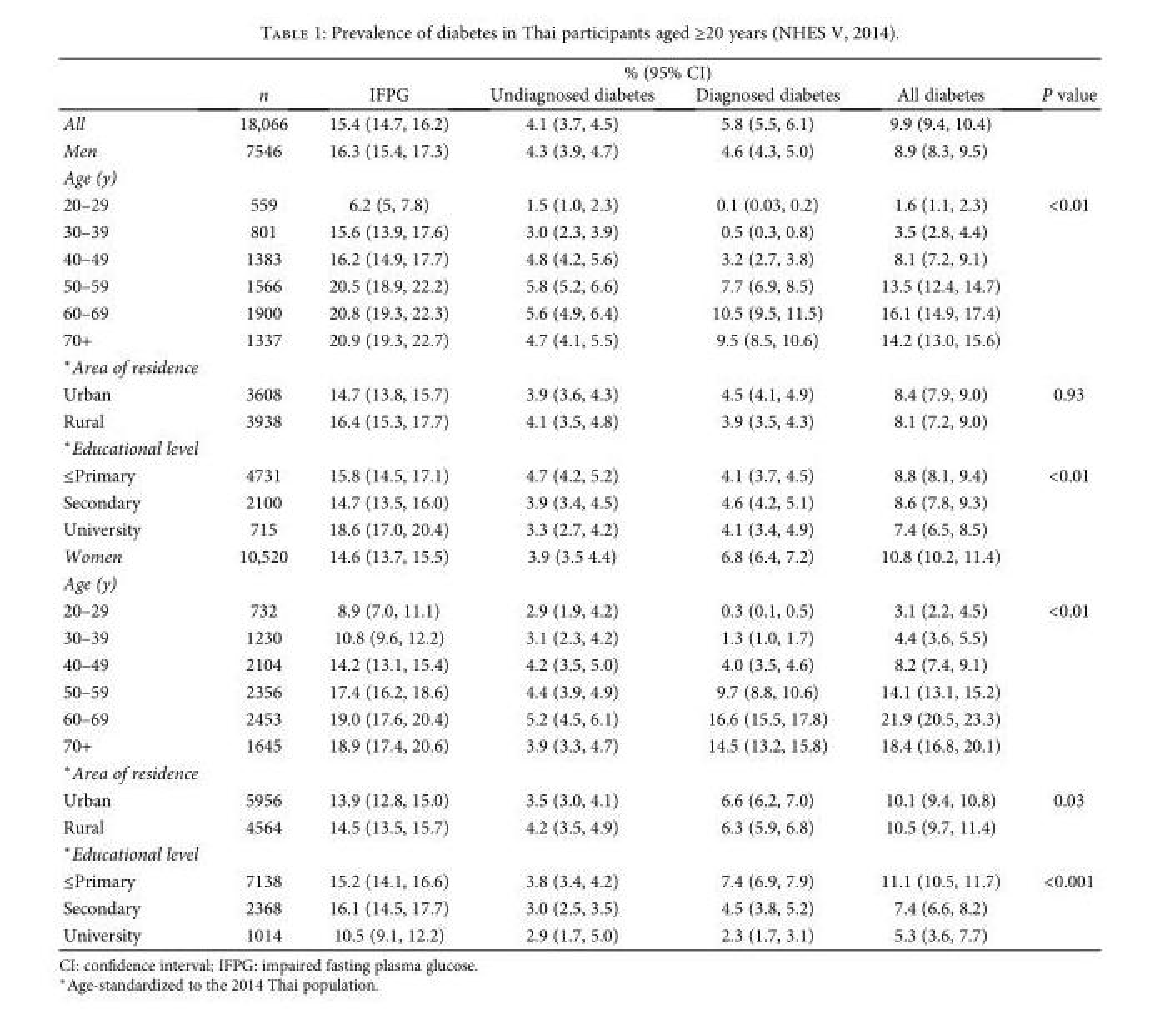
<table><thead><tr><td rowspan="2"></td><td colspan="6">% (95% CI)</td></tr><tr><td>n</td><td>IFPG</td><td>Undiagnosed diabetes</td><td>Diagnosed diabetes</td><td>All diabetes</td><td>P value</td></tr></thead><tbody><tr><td>All</td><td>18,066</td><td>15.4 (14.7, 16.2)</td><td>4.1 (3.7, 4.5)</td><td>5.8 (5.5, 6.1)</td><td>9.9 (9.4, 10.4)</td><td></td></tr><tr><td>Men</td><td>7546</td><td>16.3 (15.4, 17.3)</td><td>4.3 (3.9, 4.7)</td><td>4.6 (4.3, 5.0)</td><td>8.9 (8.3, 9.5)</td><td></td></tr><tr><td colspan="7">Age (y)</td></tr><tr><td>20–29</td><td>559</td><td>6.2 (5, 7.8)</td><td>1.5 (1.0, 2.3)</td><td>0.1 (0.03, 0.2)</td><td>1.6 (1.1, 2.3)</td><td>&lt;0.01</td></tr><tr><td>30–39</td><td>801</td><td>15.6 (13.9, 17.6)</td><td>3.0 (2.3, 3.9)</td><td>0.5 (0.3, 0.8)</td><td>3.5 (2.8, 4.4)</td><td></td></tr><tr><td>40–49</td><td>1383</td><td>16.2 (14.9, 17.7)</td><td>4.8 (4.2, 5.6)</td><td>3.2 (2.7, 3.8)</td><td>8.1 (7.2, 9.1)</td><td></td></tr><tr><td>50–59</td><td>1566</td><td>20.5 (18.9, 22.2)</td><td>5.8 (5.2, 6.6)</td><td>7.7 (6.9, 8.5)</td><td>13.5 (12.4, 14.7)</td><td></td></tr><tr><td>60–69</td><td>1900</td><td>20.8 (19.3, 22.3)</td><td>5.6 (4.9, 6.4)</td><td>10.5 (9.5, 11.5)</td><td>16.1 (14.9, 17.4)</td><td></td></tr><tr><td>70+</td><td>1337</td><td>20.9 (19.3, 22.7)</td><td>4.7 (4.1, 5.5)</td><td>9.5 (8.5, 10.6)</td><td>14.2 (13.0, 15.6)</td><td></td></tr><tr><td colspan="7">∗Area of residence</td></tr><tr><td>Urban</td><td>3608</td><td>14.7 (13.8, 15.7)</td><td>3.9 (3.6, 4.3)</td><td>4.5 (4.1, 4.9)</td><td>8.4 (7.9, 9.0)</td><td>0.93</td></tr><tr><td>Rural</td><td>3938</td><td>16.4 (15.3, 17.7)</td><td>4.1 (3.5, 4.8)</td><td>3.9 (3.5, 4.3)</td><td>8.1 (7.2, 9.0)</td><td></td></tr><tr><td colspan="7">∗Educational level</td></tr><tr><td>≤Primary</td><td>4731</td><td>15.8 (14.5, 17.1)</td><td>4.7 (4.2, 5.2)</td><td>4.1 (3.7, 4.5)</td><td>8.8 (8.1, 9.4)</td><td>&lt;0.01</td></tr><tr><td>Secondary</td><td>2100</td><td>14.7 (13.5, 16.0)</td><td>3.9 (3.4, 4.5)</td><td>4.6 (4.2, 5.1)</td><td>8.6 (7.8, 9.3)</td><td></td></tr><tr><td>University</td><td>715</td><td>18.6 (17.0, 20.4)</td><td>3.3 (2.7, 4.2)</td><td>4.1 (3.4, 4.9)</td><td>7.4 (6.5, 8.5)</td><td></td></tr><tr><td>Women</td><td>10,520</td><td>14.6 (13.7, 15.5)</td><td>3.9 (3.5 4.4)</td><td>6.8 (6.4, 7.2)</td><td>10.8 (10.2, 11.4)</td><td></td></tr><tr><td colspan="7">Age (y)</td></tr><tr><td>20–29</td><td>732</td><td>8.9 (7.0, 11.1)</td><td>2.9 (1.9, 4.2)</td><td>0.3 (0.1, 0.5)</td><td>3.1 (2.2, 4.5)</td><td>&lt;0.01</td></tr><tr><td>30–39</td><td>1230</td><td>10.8 (9.6, 12.2)</td><td>3.1 (2.3, 4.2)</td><td>1.3 (1.0, 1.7)</td><td>4.4 (3.6, 5.5)</td><td></td></tr><tr><td>40–49</td><td>2104</td><td>14.2 (13.1, 15.4)</td><td>4.2 (3.5, 5.0)</td><td>4.0 (3.5, 4.6)</td><td>8.2 (7.4, 9.1)</td><td></td></tr><tr><td>50–59</td><td>2356</td><td>17.4 (16.2, 18.6)</td><td>4.4 (3.9, 4.9)</td><td>9.7 (8.8, 10.6)</td><td>14.1 (13.1, 15.2)</td><td></td></tr><tr><td>60–69</td><td>2453</td><td>19.0 (17.6, 20.4)</td><td>5.2 (4.5, 6.1)</td><td>16.6 (15.5, 17.8)</td><td>21.9 (20.5, 23.3)</td><td></td></tr><tr><td>70+</td><td>1645</td><td>18.9 (17.4, 20.6)</td><td>3.9 (3.3, 4.7)</td><td>14.5 (13.2, 15.8)</td><td>18.4 (16.8, 20.1)</td><td></td></tr><tr><td colspan="7">∗Area of residence</td></tr><tr><td>Urban</td><td>5956</td><td>13.9 (12.8, 15.0)</td><td>3.5 (3.0, 4.1)</td><td>6.6 (6.2, 7.0)</td><td>10.1 (9.4, 10.8)</td><td>0.03</td></tr><tr><td>Rural</td><td>4564</td><td>14.5 (13.5, 15.7)</td><td>4.2 (3.5, 4.9)</td><td>6.3 (5.9, 6.8)</td><td>10.5 (9.7, 11.4)</td><td></td></tr><tr><td colspan="7">∗Educational level</td></tr><tr><td>≤Primary</td><td>7138</td><td>15.2 (14.1, 16.6)</td><td>3.8 (3.4, 4.2)</td><td>7.4 (6.9, 7.9)</td><td>11.1 (10.5, 11.7)</td><td>&lt;0.001</td></tr><tr><td>Secondary</td><td>2368</td><td>16.1 (14.5, 17.7)</td><td>3.0 (2.5, 3.5)</td><td>4.5 (3.8, 5.2)</td><td>7.4 (6.6, 8.2)</td><td></td></tr><tr><td>University</td><td>1014</td><td>10.5 (9.1, 12.2)</td><td>2.9 (1.7, 5.0)</td><td>2.3 (1.7, 3.1)</td><td>5.3 (3.6, 7.7)</td><td></td></tr></tbody></table>